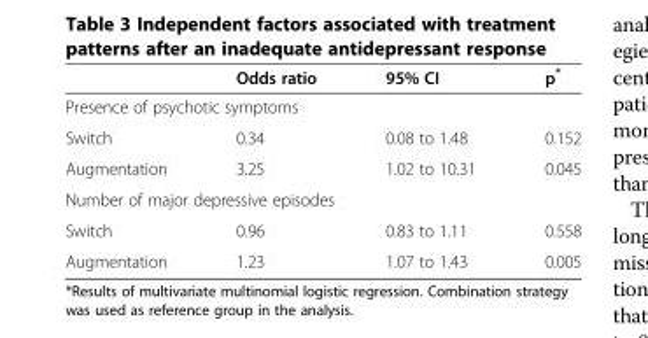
<table><thead><tr><td></td><td>Odds ratio</td><td>95% CI</td><td>p*</td></tr></thead><tbody><tr><td colspan="4">Presence of psychotic symptoms</td></tr><tr><td>Switch</td><td>0.34</td><td>0.08 to 1.48</td><td>0.152</td></tr><tr><td>Augmentation</td><td>3.25</td><td>1.02 to 10.31</td><td>0.045</td></tr><tr><td colspan="4">Number of major depressive episodes</td></tr><tr><td>Switch</td><td>0.96</td><td>0.83 to 1.11</td><td>0.558</td></tr><tr><td>Augmentation</td><td>1.23</td><td>1.07 to 1.43</td><td>0.005</td></tr></tbody></table>